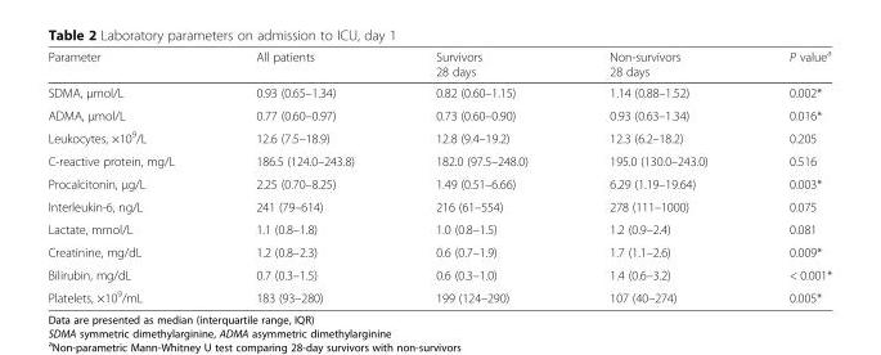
<table><thead><tr><td>Parameter</td><td>All patients</td><td>Survivors 28 days</td><td>Non-survivors 28 days</td><td>P value<sup>a</sup></td></tr></thead><tbody><tr><td>SDMA, μmol/L</td><td>0.93 (0.65–1.34)</td><td>0.82 (0.60–1.15)</td><td>1.14 (0.88–1.52)</td><td>0.002*</td></tr><tr><td>ADMA, μmol/L</td><td>0.77 (0.60–0.97)</td><td>0.73 (0.60–0.90)</td><td>0.93 (0.63–1.34)</td><td>0.016*</td></tr><tr><td>Leukocytes, ×10<sup>9</sup>/L</td><td>12.6 (7.5–18.9)</td><td>12.8 (9.4–19.2)</td><td>12.3 (6.2–18.2)</td><td>0.205</td></tr><tr><td>C-reactive protein, mg/L</td><td>186.5 (124.0–243.8)</td><td>182.0 (97.5–248.0)</td><td>195.0 (130.0–243.0)</td><td>0.516</td></tr><tr><td>Procalcitonin, μg/L</td><td>2.25 (0.70–8.25)</td><td>1.49 (0.51–6.66)</td><td>6.29 (1.19–19.64)</td><td>0.003*</td></tr><tr><td>Interleukin-6, ng/L</td><td>241 (79–614)</td><td>216 (61–554)</td><td>278 (111–1000)</td><td>0.075</td></tr><tr><td>Lactate, mmol/L</td><td>1.1 (0.8–1.8)</td><td>1.0 (0.8–1.5)</td><td>1.2 (0.9–2.4)</td><td>0.081</td></tr><tr><td>Creatinine, mg/dL</td><td>1.2 (0.8–2.3)</td><td>0.6 (0.7–1.9)</td><td>1.7 (1.1–2.6)</td><td>0.009*</td></tr><tr><td>Bilirubin, mg/dL</td><td>0.7 (0.3–1.5)</td><td>0.6 (0.3–1.0)</td><td>1.4 (0.6–3.2)</td><td>&lt; 0.001*</td></tr><tr><td>Platelets, ×10<sup>9</sup>/mL</td><td>183 (93–280)</td><td>199 (124–290)</td><td>107 (40–274)</td><td>0.005*</td></tr></tbody></table>